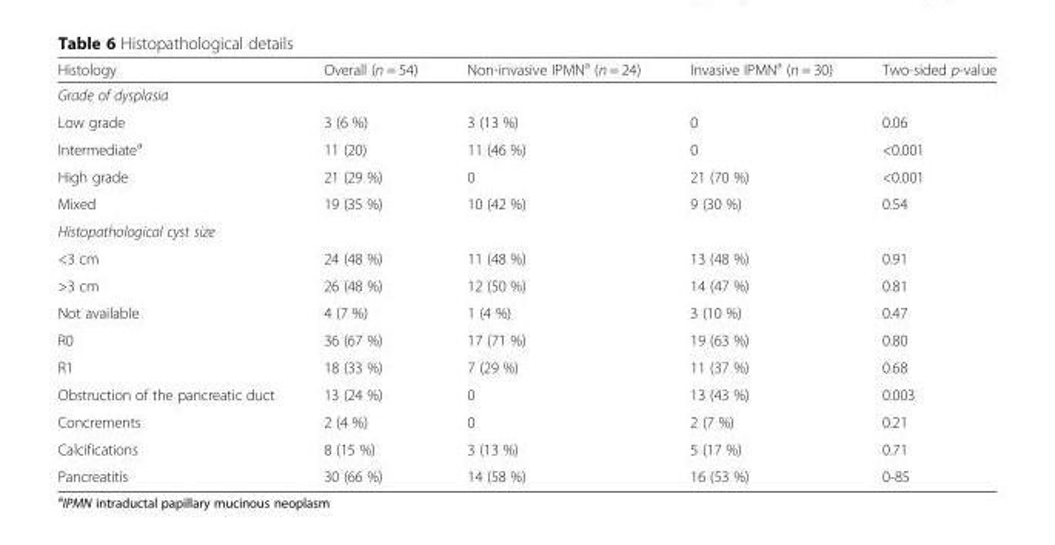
<table><thead><tr><td>Histology</td><td>Overall (n = 54)</td><td>Non-invasive IPMN<sup>a</sup> (n = 24)</td><td>Invasive IPMN<sup>a</sup> (n = 30)</td><td>Two-sided p-value</td></tr></thead><tbody><tr><td colspan="5">Grade of dysplasia</td></tr><tr><td>Low grade</td><td>3 (6 %)</td><td>3 (13 %)</td><td>0</td><td>0.06</td></tr><tr><td>Intermediate<sup>a</sup></td><td>11 (20)</td><td>11 (46 %)</td><td>0</td><td>&lt;0.001</td></tr><tr><td>High grade</td><td>21 (29 %)</td><td>0</td><td>21 (70 %)</td><td>&lt;0.001</td></tr><tr><td>Mixed</td><td>19 (35 %)</td><td>10 (42 %)</td><td>9 (30 %)</td><td>0.54</td></tr><tr><td colspan="5">Histopathological cyst size</td></tr><tr><td>&lt;3 cm</td><td>24 (48 %)</td><td>11 (48 %)</td><td>13 (48 %)</td><td>0.91</td></tr><tr><td>&gt;3 cm</td><td>26 (48 %)</td><td>12 (50 %)</td><td>14 (47 %)</td><td>0.81</td></tr><tr><td>Not available</td><td>4 (7 %)</td><td>1 (4 %)</td><td>3 (10 %)</td><td>0.47</td></tr><tr><td>R0</td><td>36 (67 %)</td><td>17 (71 %)</td><td>19 (63 %)</td><td>0.80</td></tr><tr><td>R1</td><td>18 (33 %)</td><td>7 (29 %)</td><td>11 (37 %)</td><td>0.68</td></tr><tr><td>Obstruction of the pancreatic duct</td><td>13 (24 %)</td><td>0</td><td>13 (43 %)</td><td>0.003</td></tr><tr><td>Concrements</td><td>2 (4 %)</td><td>0</td><td>2 (7 %)</td><td>0.21</td></tr><tr><td>Calcifications</td><td>8 (15 %)</td><td>3 (13 %)</td><td>5 (17 %)</td><td>0.71</td></tr><tr><td>Pancreatitis</td><td>30 (66 %)</td><td>14 (58 %)</td><td>16 (53 %)</td><td>0-85</td></tr></tbody></table>